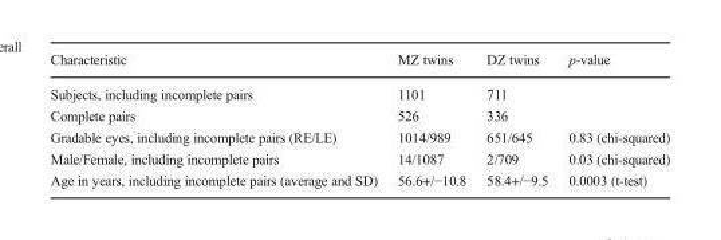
<table><thead><tr><td>Characteristic</td><td>MZ twins</td><td>DZ twins</td><td>p-value</td></tr></thead><tbody><tr><td>Subjects, including incomplete pairs</td><td>1101</td><td>711</td><td></td></tr><tr><td>Complete pairs</td><td>526</td><td>336</td><td></td></tr><tr><td>Gradable eyes, including incomplete pairs (RE/LE)</td><td>1014/989</td><td>651/645</td><td>0.83 (chi-squared)</td></tr><tr><td>Male/Female, including incomplete pairs</td><td>14/1087</td><td>2/709</td><td>0.03 (chi-squared)</td></tr><tr><td>Age in years, including incomplete pairs (average and SD)</td><td>56.6+/−10.8</td><td>58.4+/−9.5</td><td>0.0003 (t-test)</td></tr></tbody></table>